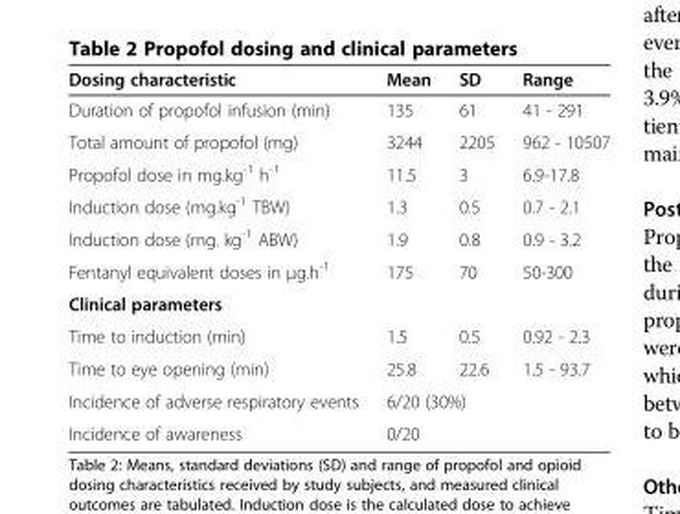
<table><thead><tr><td>Dosing characteristic</td><td>Mean</td><td>SD</td><td>Range</td></tr></thead><tbody><tr><td>Duration of propofol infusion (min)</td><td>135</td><td>61</td><td>41 - 291</td></tr><tr><td>Total amount of propofol (mg)</td><td>3244</td><td>2205</td><td>962 - 10507</td></tr><tr><td>Propofol dose in mg.kg<sup>-1</sup> h<sup>-1</sup></td><td>11.5</td><td>3</td><td>6.9-17.8</td></tr><tr><td>Induction dose (mg.kg<sup>-1</sup> TBW)</td><td>1.3</td><td>0.5</td><td>0.7 - 2.1</td></tr><tr><td>Induction dose (mg. kg<sup>-1</sup> ABW)</td><td>1.9</td><td>0.8</td><td>0.9 - 3.2</td></tr><tr><td>Fentanyl equivalent doses in μg.h<sup>-1</sup></td><td>175</td><td>70</td><td>50-300</td></tr><tr><td colspan="4">Clinical parameters</td></tr><tr><td>Time to induction (min)</td><td>1.5</td><td>0.5</td><td>0.92 - 2.3</td></tr><tr><td>Time to eye opening (min)</td><td>25.8</td><td>22.6</td><td>1.5 - 93.7</td></tr><tr><td>Incidence of adverse respiratory events</td><td colspan="3">6/20 (30%)</td></tr><tr><td>Incidence of awareness</td><td colspan="3">0/20</td></tr></tbody></table>